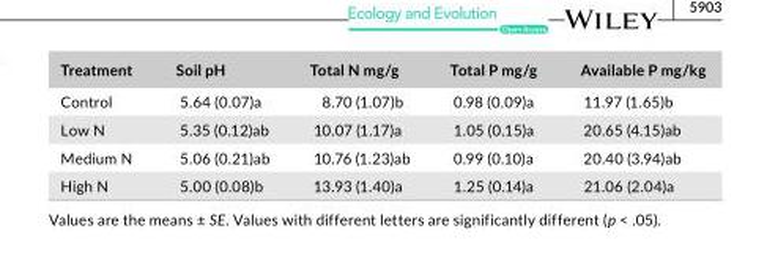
<table><thead><tr><td>Treatment</td><td>Soil pH</td><td>Total N mg/g</td><td>Total P mg/g</td><td>Available P mg/kg</td></tr></thead><tbody><tr><td>Control</td><td>5.64 (0.07)a</td><td>8.70 (1.07)b</td><td>0.98 (0.09)a</td><td>11.97 (1.65)b</td></tr><tr><td>Low N</td><td>5.35 (0.12)ab</td><td>10.07 (1.17)a</td><td>1.05 (0.15)a</td><td>20.65 (4.15)ab</td></tr><tr><td>Medium N</td><td>5.06 (0.21)ab</td><td>10.76 (1.23)ab</td><td>0.99 (0.10)a</td><td>20.40 (3.94)ab</td></tr><tr><td>High N</td><td>5.00 (0.08)b</td><td>13.93 (1.40)a</td><td>1.25 (0.14)a</td><td>21.06 (2.04)a</td></tr></tbody></table>